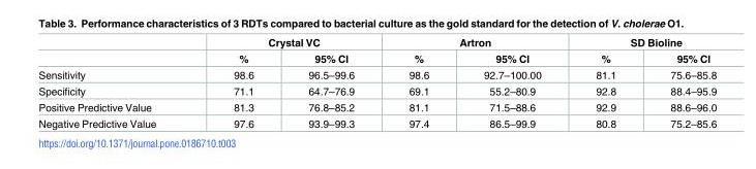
<table><thead><tr><td rowspan="2"></td><td colspan="2">Crystal VC</td><td colspan="2">Artron</td><td colspan="2">SD Bioline</td></tr><tr><td>%</td><td>95% CI</td><td>%</td><td>95% CI</td><td>%</td><td>95% CI</td></tr></thead><tbody><tr><td>Sensitivity</td><td>98.6</td><td>96.5–99.6</td><td>98.6</td><td>92.7–100.00</td><td>81.1</td><td>75.6–85.8</td></tr><tr><td>Specificity</td><td>71.1</td><td>64.7–76.9</td><td>69.1</td><td>55.2–80.9</td><td>92.8</td><td>88.4–95.9</td></tr><tr><td>Positive Predictive Value</td><td>81.3</td><td>76.8–85.2</td><td>81.1</td><td>71.5–88.6</td><td>92.9</td><td>88.6–96.0</td></tr><tr><td>Negative Predictive Value</td><td>97.6</td><td>93.9–99.3</td><td>97.4</td><td>86.5–99.9</td><td>80.8</td><td>75.2–85.6</td></tr></tbody></table>